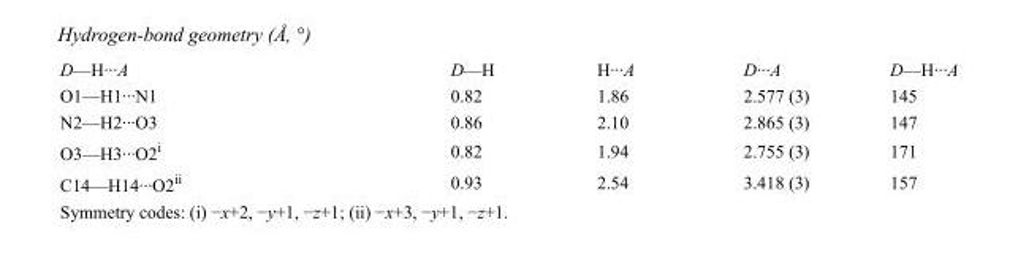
<table><tbody><tr><td>D—H···A</td><td>D—H</td><td>H···A</td><td>D···A</td><td>D—H···A</td></tr><tr><td>O1—H1···N1</td><td>0.82</td><td>1.86</td><td>2.577 (3)</td><td>145</td></tr><tr><td>N2—H2···O3</td><td>0.86</td><td>2.10</td><td>2.865 (3)</td><td>147</td></tr><tr><td>O3—H3···O2<sup>i</sup></td><td>0.82</td><td>1.94</td><td>2.755 (3)</td><td>171</td></tr><tr><td>C14—H14···O2<sup>ii</sup></td><td>0.93</td><td>2.54</td><td>3.418 (3)</td><td>157</td></tr></tbody></table>